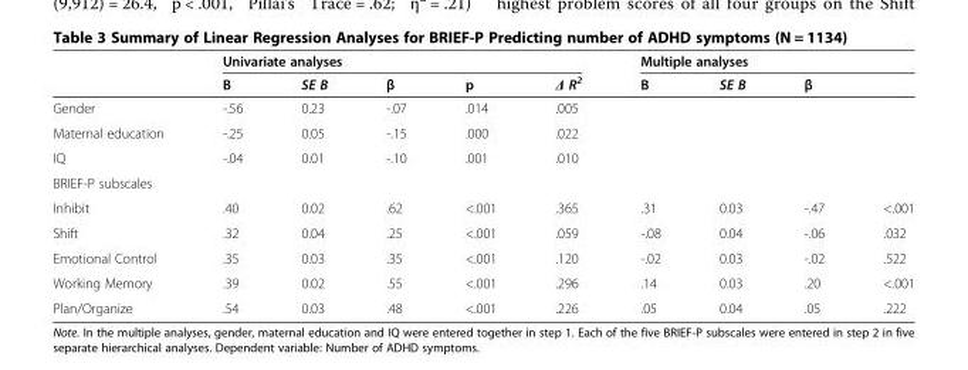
<table><thead><tr><td rowspan="2"></td><td colspan="5">Univariate analyses</td><td colspan="4">Multiple analyses</td></tr><tr><td>B</td><td>SE B</td><td>β</td><td>p</td><td>Δ R<sup>2</sup></td><td>B</td><td>SE B</td><td>β</td><td></td></tr></thead><tbody><tr><td>Gender</td><td>-.56</td><td>0.23</td><td>-.07</td><td>.014</td><td>.005</td><td></td><td></td><td></td><td></td></tr><tr><td>Maternal education</td><td>-.25</td><td>0.05</td><td>-.15</td><td>.000</td><td>.022</td><td></td><td></td><td></td><td></td></tr><tr><td>IQ</td><td>-.04</td><td>0.01</td><td>-.10</td><td>.001</td><td>.010</td><td></td><td></td><td></td><td></td></tr><tr><td colspan="10">BRIEF-P subscales</td></tr><tr><td>Inhibit</td><td>.40</td><td>0.02</td><td>.62</td><td>&lt;.001</td><td>.365</td><td>.31</td><td>0.03</td><td>-.47</td><td>&lt;.001</td></tr><tr><td>Shift</td><td>.32</td><td>0.04</td><td>.25</td><td>&lt;.001</td><td>.059</td><td>-.08</td><td>0.04</td><td>-.06</td><td>.032</td></tr><tr><td>Emotional Control</td><td>.35</td><td>0.03</td><td>.35</td><td>&lt;.001</td><td>.120</td><td>-.02</td><td>0.03</td><td>-.02</td><td>.522</td></tr><tr><td>Working Memory</td><td>.39</td><td>0.02</td><td>.55</td><td>&lt;.001</td><td>.296</td><td>.14</td><td>0.03</td><td>.20</td><td>&lt;.001</td></tr><tr><td>Plan/Organize</td><td>.54</td><td>0.03</td><td>.48</td><td>&lt;.001</td><td>.226</td><td>.05</td><td>0.04</td><td>.05</td><td>.222</td></tr></tbody></table>